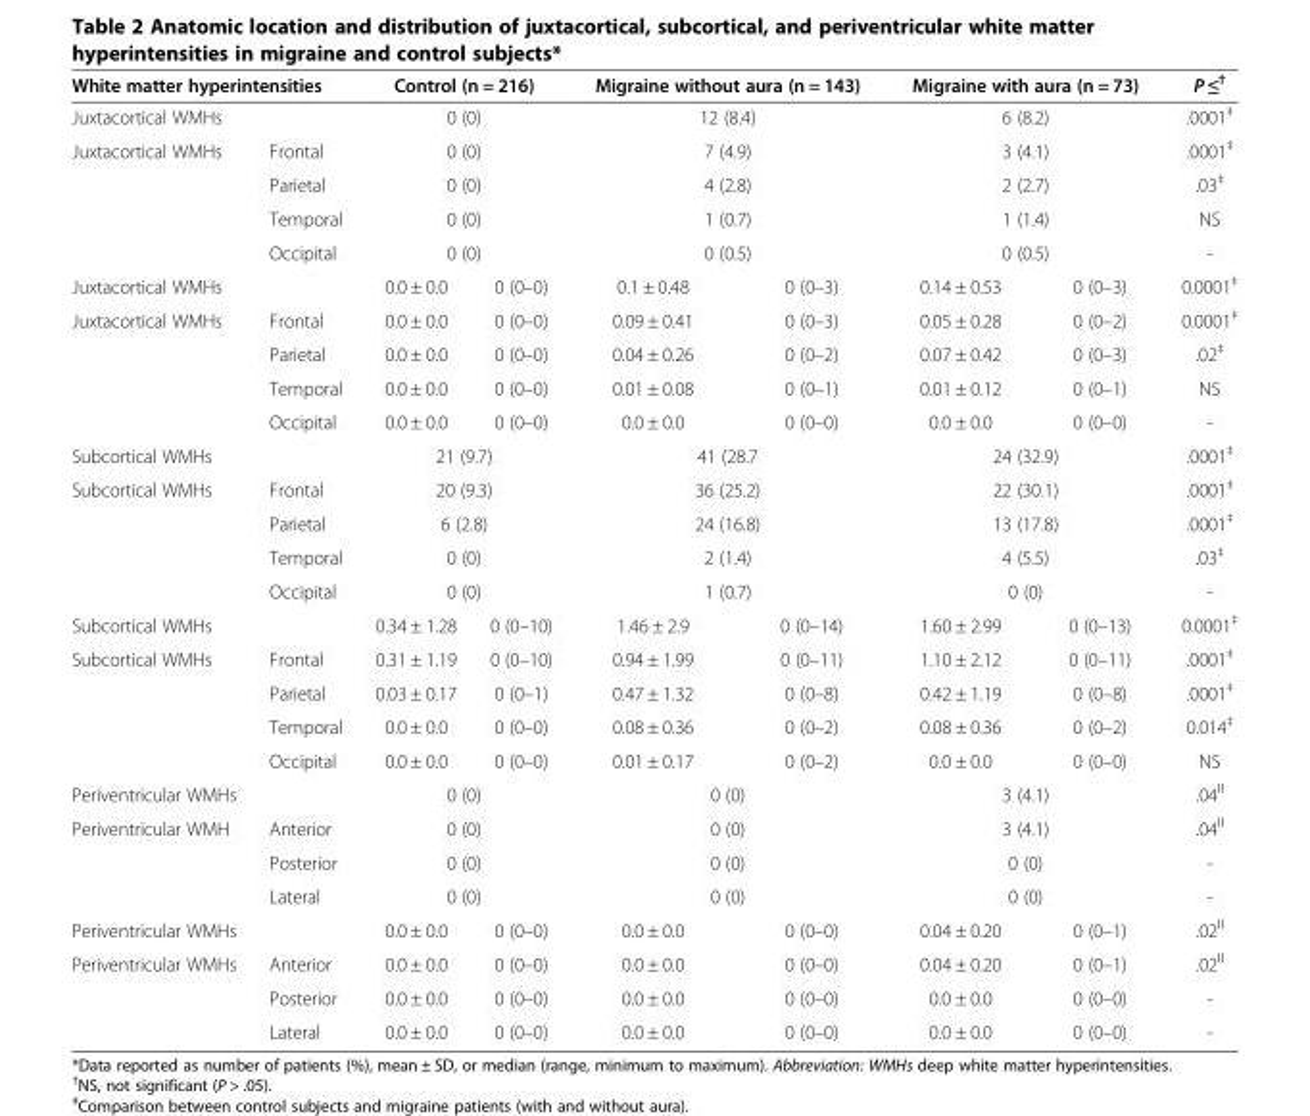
<table><thead><tr><td colspan="2">White matter hyperintensities</td><td colspan="2">Control (n = 216)</td><td colspan="2">Migraine without aura (n = 143)</td><td colspan="2">Migraine with aura (n = 73)</td><td>P ≤<sup>†</sup></td></tr></thead><tbody><tr><td colspan="2">Juxtacortical WMHs</td><td colspan="2">0 (0)</td><td colspan="2">12 (8.4)</td><td colspan="2">6 (8.2)</td><td>.0001<sup>‡</sup></td></tr><tr><td rowspan="4">Juxtacortical WMHs</td><td>Frontal</td><td colspan="2">0 (0)</td><td colspan="2">7 (4.9)</td><td colspan="2">3 (4.1)</td><td>.0001<sup>‡</sup></td></tr><tr><td>Parietal</td><td colspan="2">0 (0)</td><td colspan="2">4 (2.8)</td><td colspan="2">2 (2.7)</td><td>.03<sup>‡</sup></td></tr><tr><td>Temporal</td><td colspan="2">0 (0)</td><td colspan="2">1 (0.7)</td><td colspan="2">1 (1.4)</td><td>NS</td></tr><tr><td>Occipital</td><td colspan="2">0 (0)</td><td colspan="2">0 (0.5)</td><td colspan="2">0 (0.5)</td><td>-</td></tr><tr><td colspan="2">Juxtacortical WMHs</td><td>0.0 ± 0.0</td><td>0 (0–0)</td><td>0.1 ± 0.48</td><td>0 (0–3)</td><td>0.14 ± 0.53</td><td>0 (0–3)</td><td>0.0001<sup>‡</sup></td></tr><tr><td rowspan="4">Juxtacortical WMHs</td><td>Frontal</td><td>0.0 ± 0.0</td><td>0 (0–0)</td><td>0.09 ± 0.41</td><td>0 (0–3)</td><td>0.05 ± 0.28</td><td>0 (0–2)</td><td>0.0001<sup>‡</sup></td></tr><tr><td>Parietal</td><td>0.0 ± 0.0</td><td>0 (0–0)</td><td>0.04 ± 0.26</td><td>0 (0–2)</td><td>0.07 ± 0.42</td><td>0 (0–3)</td><td>.02<sup>‡</sup></td></tr><tr><td>Temporal</td><td>0.0 ± 0.0</td><td>0 (0–0)</td><td>0.01 ± 0.08</td><td>0 (0–1)</td><td>0.01 ± 0.12</td><td>0 (0–1)</td><td>NS</td></tr><tr><td>Occipital</td><td>0.0 ± 0.0</td><td>0 (0–0)</td><td>0.0 ± 0.0</td><td>0 (0–0)</td><td>0.0 ± 0.0</td><td>0 (0–0)</td><td>-</td></tr><tr><td colspan="2">Subcortical WMHs</td><td colspan="2">21 (9.7)</td><td colspan="2">41 (28.7</td><td colspan="2">24 (32.9)</td><td>.0001<sup>‡</sup></td></tr><tr><td rowspan="4">Subcortical WMHs</td><td>Frontal</td><td colspan="2">20 (9.3)</td><td colspan="2">36 (25.2)</td><td colspan="2">22 (30.1)</td><td>.0001<sup>‡</sup></td></tr><tr><td>Parietal</td><td colspan="2">6 (2.8)</td><td colspan="2">24 (16.8)</td><td colspan="2">13 (17.8)</td><td>.0001<sup>‡</sup></td></tr><tr><td>Temporal</td><td colspan="2">0 (0)</td><td colspan="2">2 (1.4)</td><td colspan="2">4 (5.5)</td><td>.03<sup>‡</sup></td></tr><tr><td>Occipital</td><td colspan="2">0 (0)</td><td colspan="2">1 (0.7)</td><td colspan="2">0 (0)</td><td>-</td></tr><tr><td colspan="2">Subcortical WMHs</td><td>0.34 ± 1.28</td><td>0 (0–10)</td><td>1.46 ± 2.9</td><td>0 (0–14)</td><td>1.60 ± 2.99</td><td>0 (0–13)</td><td>0.0001<sup>‡</sup></td></tr><tr><td rowspan="4">Subcortical WMHs</td><td>Frontal</td><td>0.31 ± 1.19</td><td>0 (0–10)</td><td>0.94 ± 1.99</td><td>0 (0–11)</td><td>1.10 ± 2.12</td><td>0 (0–11)</td><td>.0001<sup>‡</sup></td></tr><tr><td>Parietal</td><td>0.03 ± 0.17</td><td>0 (0–1)</td><td>0.47 ± 1.32</td><td>0 (0–8)</td><td>0.42 ± 1.19</td><td>0 (0–8)</td><td>.0001<sup>‡</sup></td></tr><tr><td>Temporal</td><td>0.0 ± 0.0</td><td>0 (0–0)</td><td>0.08 ± 0.36</td><td>0 (0–2)</td><td>0.08 ± 0.36</td><td>0 (0–2)</td><td>0.014<sup>‡</sup></td></tr><tr><td>Occipital</td><td>0.0 ± 0.0</td><td>0 (0–0)</td><td>0.01 ± 0.17</td><td>0 (0–2)</td><td>0.0 ± 0.0</td><td>0 (0–0)</td><td>NS</td></tr><tr><td colspan="2">Periventricular WMHs</td><td colspan="2">0 (0)</td><td colspan="2">0 (0)</td><td colspan="2">3 (4.1)</td><td>.04<sup>ǁ</sup></td></tr><tr><td rowspan="3">Periventricular WMH</td><td>Anterior</td><td colspan="2">0 (0)</td><td colspan="2">0 (0)</td><td colspan="2">3 (4.1)</td><td>.04<sup>ǁ</sup></td></tr><tr><td>Posterior</td><td colspan="2">0 (0)</td><td colspan="2">0 (0)</td><td colspan="2">0 (0)</td><td>-</td></tr><tr><td>Lateral</td><td colspan="2">0 (0)</td><td colspan="2">0 (0)</td><td colspan="2">0 (0)</td><td>-</td></tr><tr><td colspan="2">Periventricular WMHs</td><td>0.0 ± 0.0</td><td>0 (0–0)</td><td>0.0 ± 0.0</td><td>0 (0–0)</td><td>0.04 ± 0.20</td><td>0 (0–1)</td><td>.02<sup>ǁ</sup></td></tr><tr><td rowspan="3">Periventricular WMHs</td><td>Anterior</td><td>0.0 ± 0.0</td><td>0 (0–0)</td><td>0.0 ± 0.0</td><td>0 (0–0)</td><td>0.04 ± 0.20</td><td>0 (0–1)</td><td>.02<sup>ǁ</sup></td></tr><tr><td>Posterior</td><td>0.0 ± 0.0</td><td>0 (0–0)</td><td>0.0 ± 0.0</td><td>0 (0–0)</td><td>0.0 ± 0.0</td><td>0 (0–0)</td><td>-</td></tr><tr><td>Lateral</td><td>0.0 ± 0.0</td><td>0 (0–0)</td><td>0.0 ± 0.0</td><td>0 (0–0)</td><td>0.0 ± 0.0</td><td>0 (0–0)</td><td>-</td></tr></tbody></table>